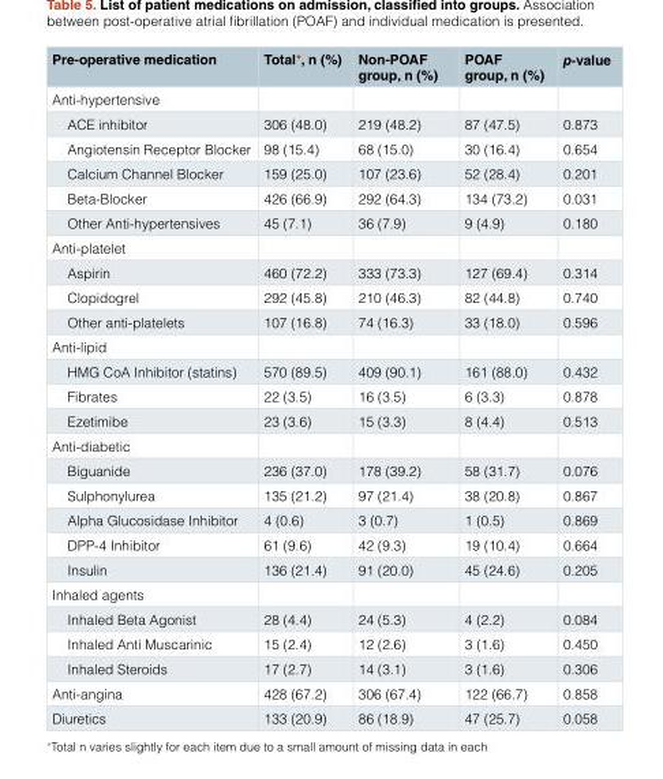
<table><thead><tr><td>Pre-operative medication</td><td>Total*, n (%)</td><td>Non-POAF group, n (%)</td><td>POAF group, n (%)</td><td>p-value</td></tr></thead><tbody><tr><td colspan="5">Anti-hypertensive</td></tr><tr><td>ACE inhibitor</td><td>306 (48.0)</td><td>219 (48.2)</td><td>87 (47.5)</td><td>0.873</td></tr><tr><td>Angiotensin Receptor Blocker</td><td>98 (15.4)</td><td>68 (15.0)</td><td>30 (16.4)</td><td>0.654</td></tr><tr><td>Calcium Channel Blocker</td><td>159 (25.0)</td><td>107 (23.6)</td><td>52 (28.4)</td><td>0.201</td></tr><tr><td>Beta-Blocker</td><td>426 (66.9)</td><td>292 (64.3)</td><td>134 (73.2)</td><td>0.031</td></tr><tr><td>Other Anti-hypertensives</td><td>45 (7.1)</td><td>36 (7.9)</td><td>9 (4.9)</td><td>0.180</td></tr><tr><td colspan="5">Anti-platelet</td></tr><tr><td>Aspirin</td><td>460 (72.2)</td><td>333 (73.3)</td><td>127 (69.4)</td><td>0.314</td></tr><tr><td>Clopidogrel</td><td>292 (45.8)</td><td>210 (46.3)</td><td>82 (44.8)</td><td>0.740</td></tr><tr><td>Other anti-platelets</td><td>107 (16.8)</td><td>74 (16.3)</td><td>33 (18.0)</td><td>0.596</td></tr><tr><td colspan="5">Anti-lipid</td></tr><tr><td>HMG CoA Inhibitor (statins)</td><td>570 (89.5)</td><td>409 (90.1)</td><td>161 (88.0)</td><td>0.432</td></tr><tr><td>Fibrates</td><td>22 (3.5)</td><td>16 (3.5)</td><td>6 (3.3)</td><td>0.878</td></tr><tr><td>Ezetimibe</td><td>23 (3.6)</td><td>15 (3.3)</td><td>8 (4.4)</td><td>0.513</td></tr><tr><td colspan="5">Anti-diabetic</td></tr><tr><td>Biguanide</td><td>236 (37.0)</td><td>178 (39.2)</td><td>58 (31.7)</td><td>0.076</td></tr><tr><td>Sulphonylurea</td><td>135 (21.2)</td><td>97 (21.4)</td><td>38 (20.8)</td><td>0.867</td></tr><tr><td>Alpha Glucosidase Inhibitor</td><td>4 (0.6)</td><td>3 (0.7)</td><td>1 (0.5)</td><td>0.869</td></tr><tr><td>DPP-4 Inhibitor</td><td>61 (9.6)</td><td>42 (9.3)</td><td>19 (10.4)</td><td>0.664</td></tr><tr><td>Insulin</td><td>136 (21.4)</td><td>91 (20.0)</td><td>45 (24.6)</td><td>0.205</td></tr><tr><td colspan="5">Inhaled agents</td></tr><tr><td>Inhaled Beta Agonist</td><td>28 (4.4)</td><td>24 (5.3)</td><td>4 (2.2)</td><td>0.084</td></tr><tr><td>Inhaled Anti Muscarinic</td><td>15 (2.4)</td><td>12 (2.6)</td><td>3 (1.6)</td><td>0.450</td></tr><tr><td>Inhaled Steroids</td><td>17 (2.7)</td><td>14 (3.1)</td><td>3 (1.6)</td><td>0.306</td></tr><tr><td>Anti-angina</td><td>428 (67.2)</td><td>306 (67.4)</td><td>122 (66.7)</td><td>0.858</td></tr><tr><td>Diuretics</td><td>133 (20.9)</td><td>86 (18.9)</td><td>47 (25.7)</td><td>0.058</td></tr></tbody></table>